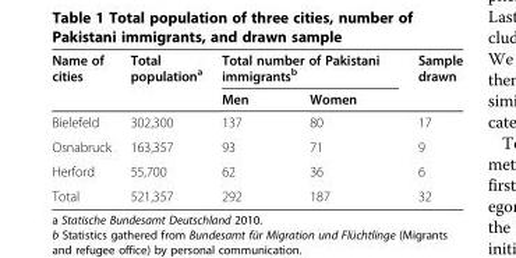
<table><thead><tr><td rowspan="2">Name of cities</td><td rowspan="2">Total population<sup>a</sup></td><td colspan="2">Total number of Pakistani immigrants<sup>b</sup></td><td rowspan="2">Sample drawn</td></tr><tr><td>Men</td><td>Women</td></tr></thead><tbody><tr><td>Bielefeld</td><td>302,300</td><td>137</td><td>80</td><td>17</td></tr><tr><td>Osnabruck</td><td>163,357</td><td>93</td><td>71</td><td>9</td></tr><tr><td>Herford</td><td>55,700</td><td>62</td><td>36</td><td>6</td></tr><tr><td>Total</td><td>521,357</td><td>292</td><td>187</td><td>32</td></tr></tbody></table>